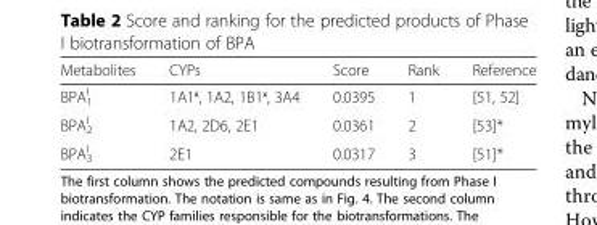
<table><thead><tr><td>Metabolites</td><td>CYPs</td><td>Score</td><td>Rank</td><td>Reference</td></tr></thead><tbody><tr><td>BPA<sup>I</sup> <sub>1</sub></td><td>1A1ˣ, 1A2, 1B1ˣ, 3A4</td><td>0.0395</td><td>1</td><td>[51, 52]</td></tr><tr><td>BPA<sup>I</sup> <sub>2</sub></td><td>1A2, 2D6, 2E1</td><td>0.0361</td><td>2</td><td>[53]*</td></tr><tr><td>BPA<sup>I</sup> <sub>3</sub></td><td>2E1</td><td>0.0317</td><td>3</td><td>[51]*</td></tr></tbody></table>